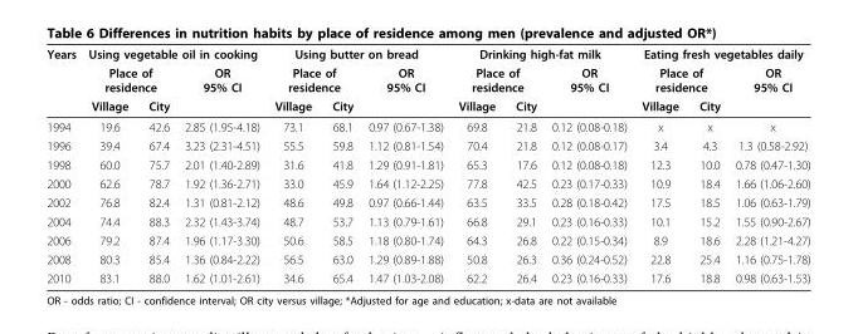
<table><thead><tr><td rowspan="3">Years</td><td colspan="3">Using vegetable oil in cooking</td><td colspan="3">Using butter on bread</td><td colspan="3">Drinking high-fat milk</td><td colspan="3">Eating fresh vegetables daily</td></tr><tr><td colspan="2">Place of residence</td><td rowspan="2">OR 95% CI</td><td colspan="2">Place of residence</td><td rowspan="2">OR 95% CI</td><td colspan="2">Place of residence</td><td rowspan="2">OR 95% CI</td><td colspan="2">Place of residence</td><td rowspan="2">OR 95% CI</td></tr><tr><td>Village</td><td>City</td><td>Village</td><td>City</td><td>Village</td><td>City</td><td>Village</td><td>City</td></tr></thead><tbody><tr><td>1994</td><td>19.6</td><td>42.6</td><td>2.85 (1.95-4.18)</td><td>73.1</td><td>68.1</td><td>0.97 (0.67-1.38)</td><td>69.8</td><td>21.8</td><td>0.12 (0.08-0.18)</td><td>x</td><td>x</td><td>x</td></tr><tr><td>1996</td><td>39.4</td><td>67.4</td><td>3.23 (2.31-4.51)</td><td>55.5</td><td>59.8</td><td>1.12 (0.81-1.54)</td><td>70.4</td><td>21.8</td><td>0.12 (0.08-0.17)</td><td>3.4</td><td>4.3</td><td>1.3 (0.58-2.92)</td></tr><tr><td>1998</td><td>60.0</td><td>75.7</td><td>2.01 (1.40-2.89)</td><td>31.6</td><td>41.8</td><td>1.29 (0.91-1.81)</td><td>65.3</td><td>17.6</td><td>0.12 (0.08-0.18)</td><td>12.3</td><td>10.0</td><td>0.78 (0.47-1.30)</td></tr><tr><td>2000</td><td>62.6</td><td>78.7</td><td>1.92 (1.36-2.71)</td><td>33.0</td><td>45.9</td><td>1.64 (1.12-2.25)</td><td>77.8</td><td>42.5</td><td>0.23 (0.17-0.33)</td><td>10.9</td><td>18.4</td><td>1.66 (1.06-2.60)</td></tr><tr><td>2002</td><td>76.8</td><td>82.4</td><td>1.31 (0.81-2.12)</td><td>48.6</td><td>49.8</td><td>0.97 (0.66-1.44)</td><td>63.5</td><td>33.5</td><td>0.28 (0.18-0.42)</td><td>17.5</td><td>18.5</td><td>1.06 (0.63-1.79)</td></tr><tr><td>2004</td><td>74.4</td><td>88.3</td><td>2.32 (1.43-3.74)</td><td>48.7</td><td>53.7</td><td>1.13 (0.79-1.61)</td><td>66.8</td><td>29.1</td><td>0.23 (0.16-0.33)</td><td>10.1</td><td>15.2</td><td>1.55 (0.90-2.67)</td></tr><tr><td>2006</td><td>79.2</td><td>87.4</td><td>1.96 (1.17-3.30)</td><td>50.6</td><td>58.5</td><td>1.18 (0.80-1.74)</td><td>64.3</td><td>26.8</td><td>0.22 (0.15-0.34)</td><td>8.9</td><td>18.6</td><td>2.28 (1.21-4.27)</td></tr><tr><td>2008</td><td>80.3</td><td>85.4</td><td>1.36 (0.84-2.22)</td><td>56.5</td><td>63.0</td><td>1.29 (0.89-1.88)</td><td>50.8</td><td>26.3</td><td>0.36 (0.24-0.52)</td><td>22.8</td><td>25.4</td><td>1.16 (0.75-1.78)</td></tr><tr><td>2010</td><td>83.1</td><td>88.0</td><td>1.62 (1.01-2.61)</td><td>34.6</td><td>65.4</td><td>1.47 (1.03-2.08)</td><td>62.2</td><td>26.4</td><td>0.23 (0.16-0.33)</td><td>17.6</td><td>18.8</td><td>0.98 (0.63-1.53)</td></tr></tbody></table>